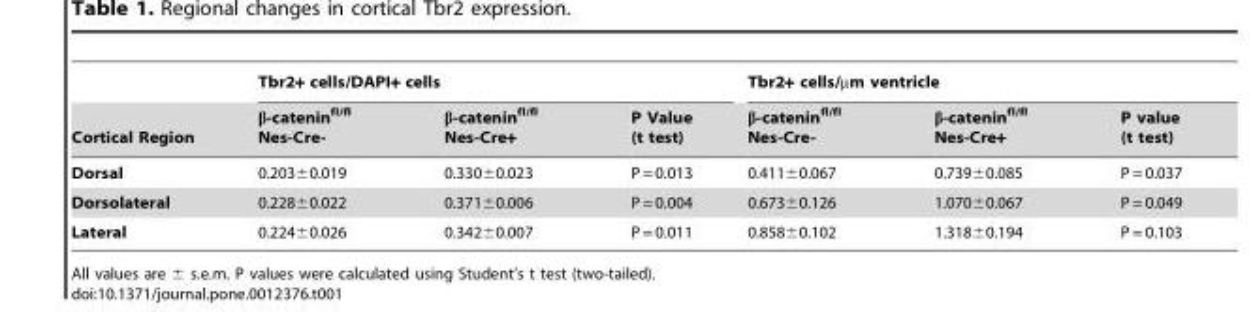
<table><thead><tr><td rowspan="2">Cortical Region</td><td colspan="3">Tbr2+ cells/DAPI+ cells</td><td colspan="3">Tbr2+ cells/µm ventricle</td></tr><tr><td>β-catenin<sup>fl/fl</sup> Nes-Cre-</td><td>β-catenin<sup>fl/fl</sup> Nes-Cre+</td><td>P Value (t test)</td><td>β-catenin<sup>fl/fl</sup> Nes-Cre-</td><td>β-catenin<sup>fl/fl</sup> Nes-Cre+</td><td>P value (t test)</td></tr></thead><tbody><tr><td>Dorsal</td><td>0.203±0.019</td><td>0.330±0.023</td><td>P = 0.013</td><td>0.411±0.067</td><td>0.739±0.085</td><td>P = 0.037</td></tr><tr><td>Dorsolateral</td><td>0.228±0.022</td><td>0.371±0.006</td><td>P = 0.004</td><td>0.673±0.126</td><td>1.070±0.067</td><td>P = 0.049</td></tr><tr><td>Lateral</td><td>0.224±0.026</td><td>0.342±0.007</td><td>P = 0.011</td><td>0.858±0.102</td><td>1.318±0.194</td><td>P = 0.103</td></tr></tbody></table>